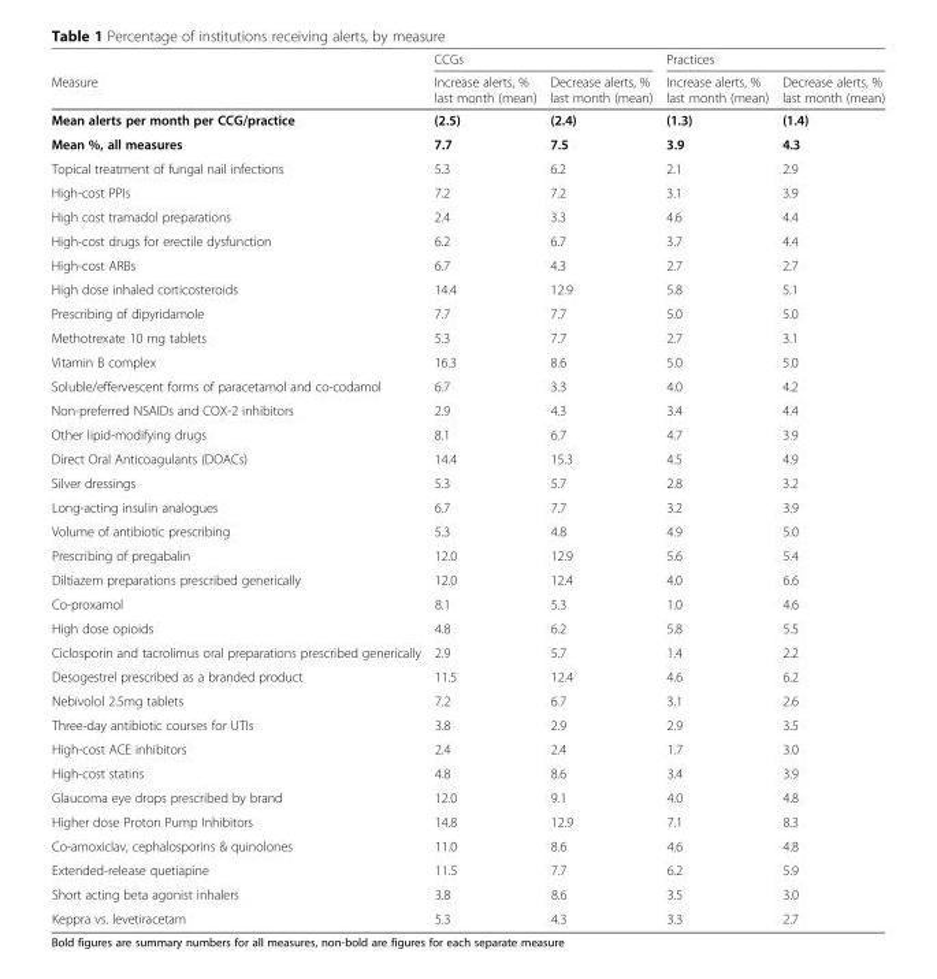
<table><thead><tr><td rowspan="2">Measure</td><td colspan="2">CCGs</td><td colspan="2">Practices</td></tr><tr><td>Increase alerts, % last month (mean)</td><td>Decrease alerts, % last month (mean)</td><td>Increase alerts, % last month (mean)</td><td>Decrease alerts, % last month (mean)</td></tr></thead><tbody><tr><td>Mean alerts per month per CCG/practice</td><td>(2.5)</td><td>(2.4)</td><td>(1.3)</td><td>(1.4)</td></tr><tr><td>Mean %, all measures</td><td>7.7</td><td>7.5</td><td>3.9</td><td>4.3</td></tr><tr><td>Topical treatment of fungal nail infections</td><td>5.3</td><td>6.2</td><td>2.1</td><td>2.9</td></tr><tr><td>High-cost PPIs</td><td>7.2</td><td>7.2</td><td>3.1</td><td>3.9</td></tr><tr><td>High cost tramadol preparations</td><td>2.4</td><td>3.3</td><td>4.6</td><td>4.4</td></tr><tr><td>High-cost drugs for erectile dysfunction</td><td>6.2</td><td>6.7</td><td>3.7</td><td>4.4</td></tr><tr><td>High-cost ARBs</td><td>6.7</td><td>4.3</td><td>2.7</td><td>2.7</td></tr><tr><td>High dose inhaled corticosteroids</td><td>14.4</td><td>12.9</td><td>5.8</td><td>5.1</td></tr><tr><td>Prescribing of dipyridamole</td><td>7.7</td><td>7.7</td><td>5.0</td><td>5.0</td></tr><tr><td>Methotrexate 10 mg tablets</td><td>5.3</td><td>7.7</td><td>2.7</td><td>3.1</td></tr><tr><td>Vitamin B complex</td><td>16.3</td><td>8.6</td><td>5.0</td><td>5.0</td></tr><tr><td>Soluble/effervescent forms of paracetamol and co-codamol</td><td>6.7</td><td>3.3</td><td>4.0</td><td>4.2</td></tr><tr><td>Non-preferred NSAIDs and COX-2 inhibitors</td><td>2.9</td><td>4.3</td><td>3.4</td><td>4.4</td></tr><tr><td>Other lipid-modifying drugs</td><td>8.1</td><td>6.7</td><td>4.7</td><td>3.9</td></tr><tr><td>Direct Oral Anticoagulants (DOACs)</td><td>14.4</td><td>15.3</td><td>4.5</td><td>4.9</td></tr><tr><td>Silver dressings</td><td>5.3</td><td>5.7</td><td>2.8</td><td>3.2</td></tr><tr><td>Long-acting insulin analogues</td><td>6.7</td><td>7.7</td><td>3.2</td><td>3.9</td></tr><tr><td>Volume of antibiotic prescribing</td><td>5.3</td><td>4.8</td><td>4.9</td><td>5.0</td></tr><tr><td>Prescribing of pregabalin</td><td>12.0</td><td>12.9</td><td>5.6</td><td>5.4</td></tr><tr><td>Diltiazem preparations prescribed generically</td><td>12.0</td><td>12.4</td><td>4.0</td><td>6.6</td></tr><tr><td>Co-proxamol</td><td>8.1</td><td>5.3</td><td>1.0</td><td>4.6</td></tr><tr><td>High dose opioids</td><td>4.8</td><td>6.2</td><td>5.8</td><td>5.5</td></tr><tr><td>Ciclosporin and tacrolimus oral preparations prescribed generically</td><td>2.9</td><td>5.7</td><td>1.4</td><td>2.2</td></tr><tr><td>Desogestrel prescribed as a branded product</td><td>11.5</td><td>12.4</td><td>4.6</td><td>6.2</td></tr><tr><td>Nebivolol 2.5mg tablets</td><td>7.2</td><td>6.7</td><td>3.1</td><td>2.6</td></tr><tr><td>Three-day antibiotic courses for UTIs</td><td>3.8</td><td>2.9</td><td>2.9</td><td>3.5</td></tr><tr><td>High-cost ACE inhibitors</td><td>2.4</td><td>2.4</td><td>1.7</td><td>3.0</td></tr><tr><td>High-cost statins</td><td>4.8</td><td>8.6</td><td>3.4</td><td>3.9</td></tr><tr><td>Glaucoma eye drops prescribed by brand</td><td>12.0</td><td>9.1</td><td>4.0</td><td>4.8</td></tr><tr><td>Higher dose Proton Pump Inhibitors</td><td>14.8</td><td>12.9</td><td>7.1</td><td>8.3</td></tr><tr><td>Co-amoxiclav, cephalosporins &amp; quinolones</td><td>11.0</td><td>8.6</td><td>4.6</td><td>4.8</td></tr><tr><td>Extended-release quetiapine</td><td>11.5</td><td>7.7</td><td>6.2</td><td>5.9</td></tr><tr><td>Short acting beta agonist inhalers</td><td>3.8</td><td>8.6</td><td>3.5</td><td>3.0</td></tr><tr><td>Keppra vs. levetiracetam</td><td>5.3</td><td>4.3</td><td>3.3</td><td>2.7</td></tr></tbody></table>